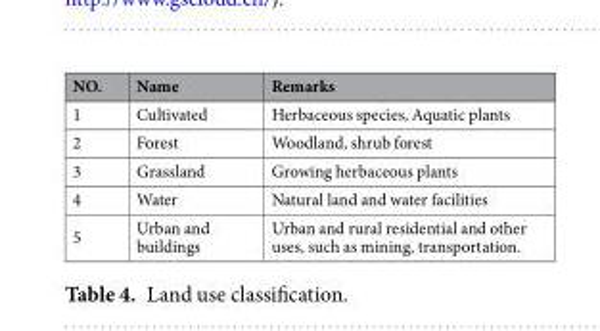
<table><thead><tr><td>NO.</td><td>Name</td><td>Remarks</td></tr></thead><tbody><tr><td>1</td><td>Cultivated</td><td>Herbaceous species, Aquatic plants</td></tr><tr><td>2</td><td>Forest</td><td>Woodland, shrub forest</td></tr><tr><td>3</td><td>Grassland</td><td>Growing herbaceous plants</td></tr><tr><td>4</td><td>Water</td><td>Natural land and water facilities</td></tr><tr><td>5</td><td>Urban and buildings</td><td>Urban and rural residential and other uses, such as mining, transportation.</td></tr></tbody></table>